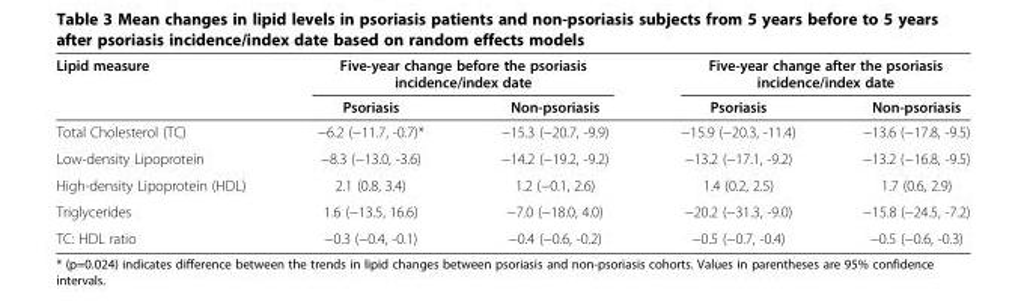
<table><thead><tr><td rowspan="2">Lipid measure</td><td colspan="2">Five-year change before the psoriasis incidence/index date</td><td colspan="2">Five-year change after the psoriasis incidence/index date</td></tr><tr><td>Psoriasis</td><td>Non-psoriasis</td><td>Psoriasis</td><td>Non-psoriasis</td></tr></thead><tbody><tr><td>Total Cholesterol (TC)</td><td>−6.2 (−11.7, -0.7)*</td><td>−15.3 (−20.7, -9.9)</td><td>−15.9 (−20.3, -11.4)</td><td>−13.6 (−17.8, -9.5)</td></tr><tr><td>Low-density Lipoprotein</td><td>−8.3 (−13.0, -3.6)</td><td>−14.2 (−19.2, -9.2)</td><td>−13.2 (−17.1, -9.2)</td><td>−13.2 (−16.8, -9.5)</td></tr><tr><td>High-density Lipoprotein (HDL)</td><td>2.1 (0.8, 3.4)</td><td>1.2 (−0.1, 2.6)</td><td>1.4 (0.2, 2.5)</td><td>1.7 (0.6, 2.9)</td></tr><tr><td>Triglycerides</td><td>1.6 (−13.5, 16.6)</td><td>−7.0 (−18.0, 4.0)</td><td>−20.2 (−31.3, -9.0)</td><td>−15.8 (−24.5, -7.2)</td></tr><tr><td>TC: HDL ratio</td><td>−0.3 (−0.4, -0.1)</td><td>−0.4 (−0.6, -0.2)</td><td>−0.5 (−0.7, -0.4)</td><td>−0.5 (−0.6, -0.3)</td></tr></tbody></table>